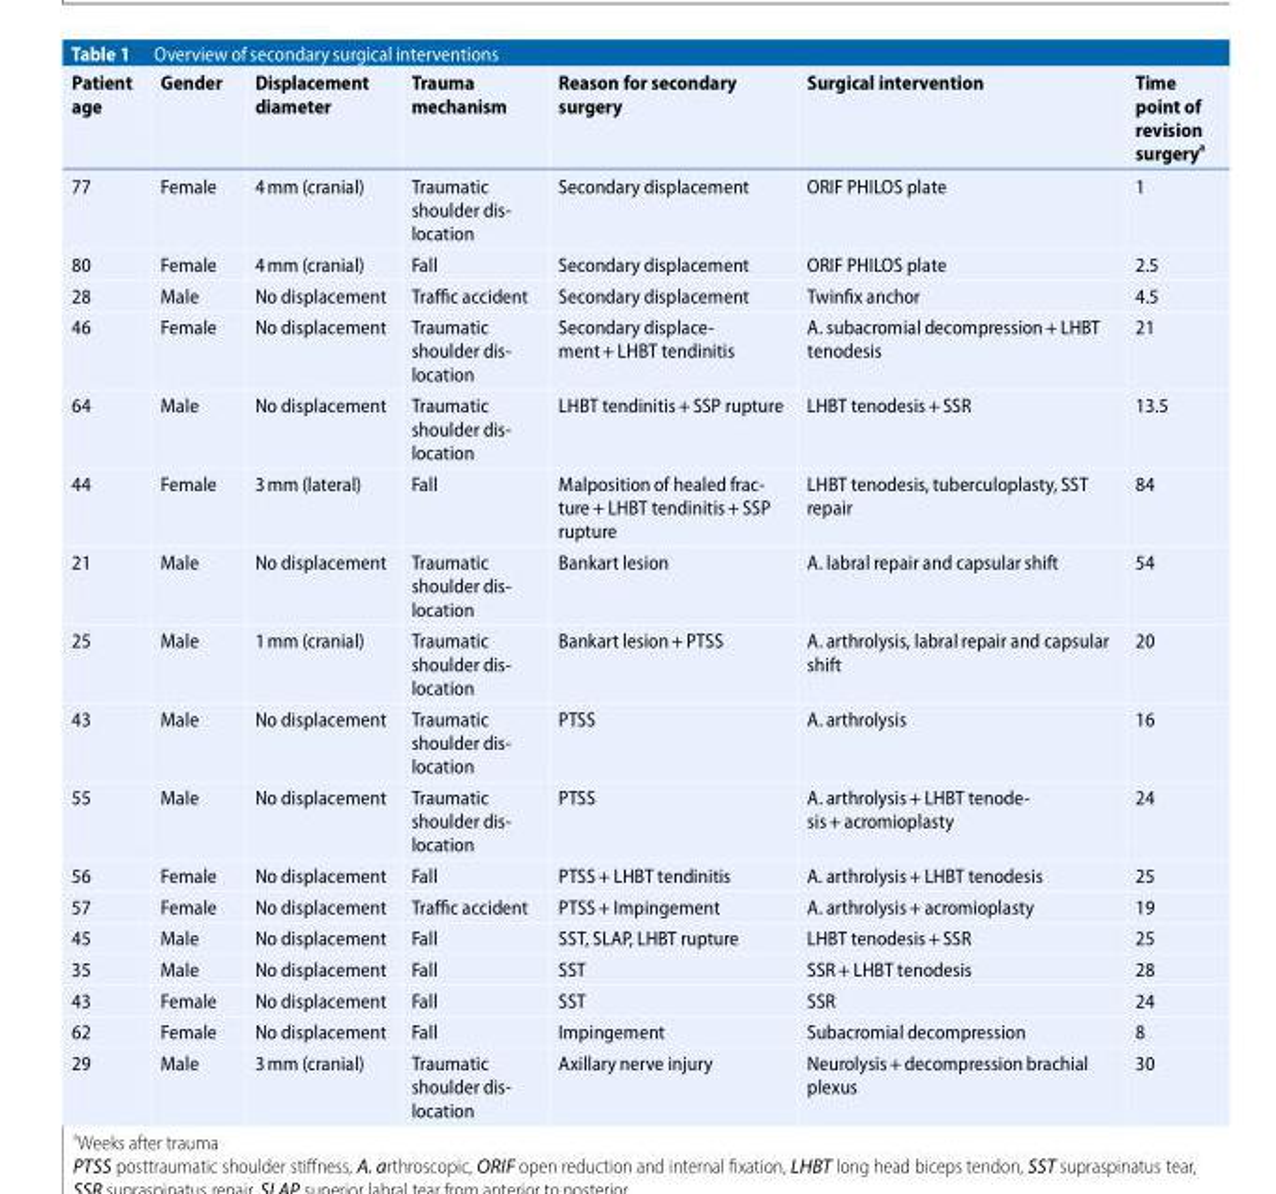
<table><thead><tr><td>Patient age</td><td>Gender</td><td>Displacement diameter</td><td>Trauma mechanism</td><td>Reason for secondary surgery</td><td>Surgical intervention</td><td>Time point of revision surgery<sup>a</sup></td></tr></thead><tbody><tr><td>77</td><td>Female</td><td>4mm (cranial)</td><td>Traumatic shoulder dis- location</td><td>Secondary displacement</td><td>ORIF PHILOS plate</td><td>1</td></tr><tr><td>80</td><td>Female</td><td>4mm (cranial)</td><td>Fall</td><td>Secondary displacement</td><td>ORIF PHILOS plate</td><td>2.5</td></tr><tr><td>28</td><td>Male</td><td>No displacement</td><td>Traffic accident</td><td>Secondary displacement</td><td>Twinfix anchor</td><td>4.5</td></tr><tr><td>46</td><td>Female</td><td>No displacement</td><td>Traumatic shoulder dis- location</td><td>Secondary displace- ment+ LHBT tendinitis</td><td>A. subacromial decompression+ LHBT tenodesis</td><td>21</td></tr><tr><td>64</td><td>Male</td><td>No displacement</td><td>Traumatic shoulder dis- location</td><td>LHBT tendinitis+SSP rupture</td><td>LHBT tenodesis+SSR</td><td>13.5</td></tr><tr><td>44</td><td>Female</td><td>3mm (lateral)</td><td>Fall</td><td>Malposition of healed frac- ture+ LHBT tendinitis+SSP rupture</td><td>LHBT tenodesis, tuberculoplasty, SST repair</td><td>84</td></tr><tr><td>21</td><td>Male</td><td>No displacement</td><td>Traumatic shoulder dis- location</td><td>Bankart lesion</td><td>A. labral repair and capsular shift</td><td>54</td></tr><tr><td>25</td><td>Male</td><td>1mm (cranial)</td><td>Traumatic shoulder dis- location</td><td>Bankart lesion+ PTSS</td><td>A. arthrolysis, labral repair and capsular shift</td><td>20</td></tr><tr><td>43</td><td>Male</td><td>No displacement</td><td>Traumatic shoulder dis- location</td><td>PTSS</td><td>A. arthrolysis</td><td>16</td></tr><tr><td>55</td><td>Male</td><td>No displacement</td><td>Traumatic shoulder dis- location</td><td>PTSS</td><td>A. arthrolysis+ LHBT tenode- sis+ acromioplasty</td><td>24</td></tr><tr><td>56</td><td>Female</td><td>No displacement</td><td>Fall</td><td>PTSS+ LHBT tendinitis</td><td>A. arthrolysis+ LHBT tenodesis</td><td>25</td></tr><tr><td>57</td><td>Female</td><td>No displacement</td><td>Traffic accident</td><td>PTSS+ Impingement</td><td>A. arthrolysis+ acromioplasty</td><td>19</td></tr><tr><td>45</td><td>Male</td><td>No displacement</td><td>Fall</td><td>SST, SLAP, LHBT rupture</td><td>LHBT tenodesis+SSR</td><td>25</td></tr><tr><td>35</td><td>Male</td><td>No displacement</td><td>Fall</td><td>SST</td><td>SSR+ LHBT tenodesis</td><td>28</td></tr><tr><td>43</td><td>Female</td><td>No displacement</td><td>Fall</td><td>SST</td><td>SSR</td><td>24</td></tr><tr><td>62</td><td>Female</td><td>No displacement</td><td>Fall</td><td>Impingement</td><td>Subacromial decompression</td><td>8</td></tr><tr><td>29</td><td>Male</td><td>3mm (cranial)</td><td>Traumatic shoulder dis- location</td><td>Axillary nerve injury</td><td>Neurolysis+ decompression brachial plexus</td><td>30</td></tr></tbody></table>